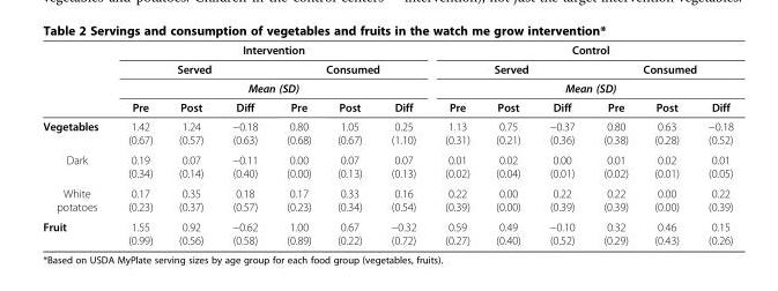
<table><thead><tr><td rowspan="4"></td><td colspan="6">Intervention</td><td colspan="6">Control</td></tr><tr><td colspan="3">Served</td><td colspan="3">Consumed</td><td colspan="3">Served</td><td colspan="3">Consumed</td></tr><tr><td colspan="6">Mean (SD)</td><td colspan="6">Mean (SD)</td></tr><tr><td>Pre</td><td>Post</td><td>Diff</td><td>Pre</td><td>Post</td><td>Diff</td><td>Pre</td><td>Post</td><td>Diff</td><td>Pre</td><td>Post</td><td>Diff</td></tr></thead><tbody><tr><td>Vegetables</td><td>1.42 (0.67)</td><td>1.24 (0.57)</td><td>−0.18 (0.63)</td><td>0.80 (0.68)</td><td>1.05 (0.67)</td><td>0.25 (1.10)</td><td>1.13 (0.31)</td><td>0.75 (0.21)</td><td>−0.37 (0.36)</td><td>0.80 (0.38)</td><td>0.63 (0.28)</td><td>−0.18 (0.52)</td></tr><tr><td>Dark</td><td>0.19 (0.34)</td><td>0.07 (0.14)</td><td>−0.11 (0.40)</td><td>0.00 (0.00)</td><td>0.07 (0.13)</td><td>0.07 (0.13)</td><td>0.01 (0.02)</td><td>0.02 (0.04)</td><td>0.00 (0.01)</td><td>0.01 (0.02)</td><td>0.02 (0.01)</td><td>0.01 (0.05)</td></tr><tr><td>White potatoes</td><td>0.17 (0.23)</td><td>0.35 (0.37)</td><td>0.18 (0.57)</td><td>0.17 (0.23)</td><td>0.33 (0.34)</td><td>0.16 (0.54)</td><td>0.22 (0.39)</td><td>0.00 (0.00)</td><td>0.22 (0.39)</td><td>0.22 (0.39)</td><td>0.00 (0.00)</td><td>0.22 (0.39)</td></tr><tr><td>Fruit</td><td>1.55 (0.99)</td><td>0.92 (0.56)</td><td>−0.62 (0.58)</td><td>1.00 (0.89)</td><td>0.67 (0.22)</td><td>−0.32 (0.72)</td><td>0.59 (0.27)</td><td>0.49 (0.40)</td><td>−0.10 (0.52)</td><td>0.32 (0.29)</td><td>0.46 (0.43)</td><td>0.15 (0.26)</td></tr></tbody></table>